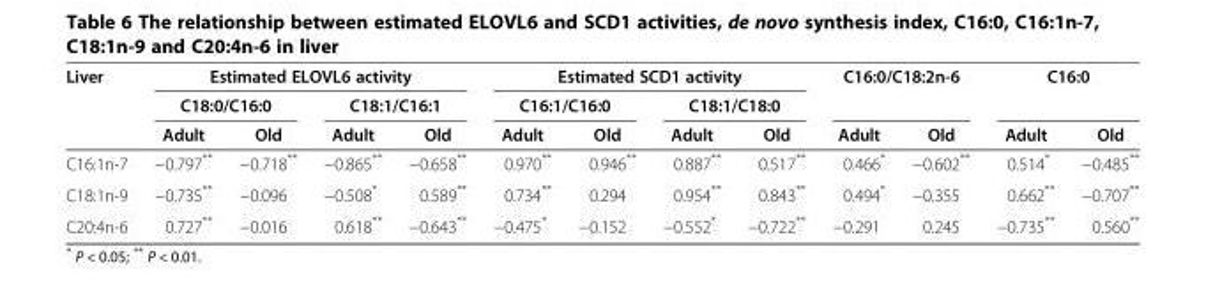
<table><thead><tr><td rowspan="3">Liver</td><td colspan="4">Estimated ELOVL6 activity</td><td colspan="4">Estimated SCD1 activity</td><td rowspan="2" colspan="2">C16:0/C18:2n-6</td><td rowspan="2" colspan="2">C16:0</td></tr><tr><td colspan="2">C18:0/C16:0</td><td colspan="2">C18:1/C16:1</td><td colspan="2">C16:1/C16:0</td><td colspan="2">C18:1/C18:0</td></tr><tr><td>Adult</td><td>Old</td><td>Adult</td><td>Old</td><td>Adult</td><td>Old</td><td>Adult</td><td>Old</td><td>Adult</td><td>Old</td><td>Adult</td><td>Old</td></tr></thead><tbody><tr><td>C16:1n-7</td><td>−0.797**</td><td>−0.718**</td><td>−0.865**</td><td>−0.658**</td><td>0.970**</td><td>0.946**</td><td>0.887**</td><td>0.517**</td><td>0.466*</td><td>−0.602**</td><td>0.514*</td><td>−0.485**</td></tr><tr><td>C18:1n-9</td><td>−0.735**</td><td>−0.096</td><td>−0.508*</td><td>0.589**</td><td>0.734**</td><td>0.294</td><td>0.954**</td><td>0.843**</td><td>0.494*</td><td>−0.355</td><td>0.662**</td><td>−0.707**</td></tr><tr><td>C20:4n-6</td><td>0.727**</td><td>−0.016</td><td>0.618**</td><td>−0.643**</td><td>−0.475*</td><td>−0.152</td><td>−0.552*</td><td>−0.722**</td><td>−0.291</td><td>0.245</td><td>−0.735**</td><td>0.560**</td></tr></tbody></table>